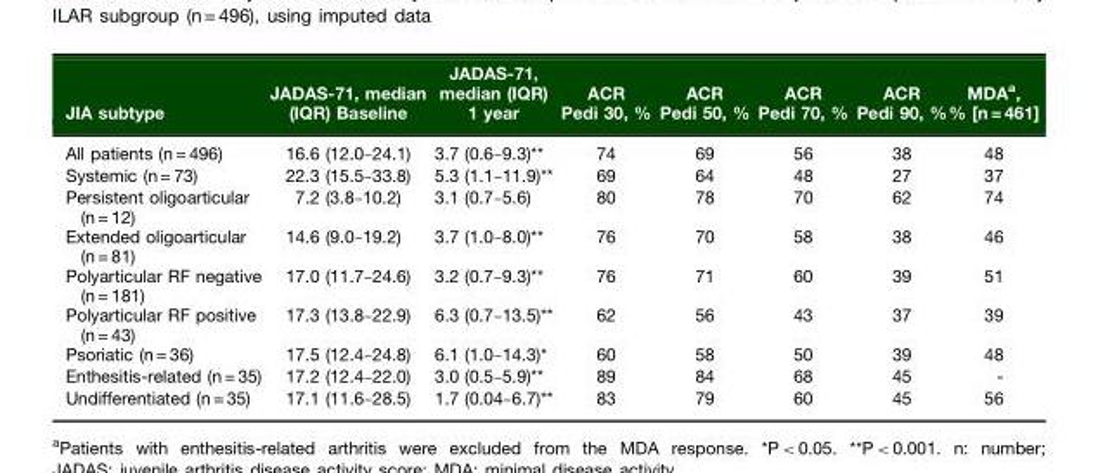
<table><thead><tr><td>JIA subtype</td><td>JADAS-71, median (IQR) Baseline</td><td>JADAS-71, median (IQR) 1 year</td><td>ACR Pedi 30, %</td><td>ACR Pedi 50, %</td><td>ACR Pedi 70, %</td><td>ACR Pedi 90, %</td><td>MDA<sup>a</sup>, % [n = 461]</td></tr></thead><tbody><tr><td>All patients (n = 496)</td><td>16.6 (12.0–24.1)</td><td>3.7 (0.6–9.3)**</td><td>74</td><td>69</td><td>56</td><td>38</td><td>48</td></tr><tr><td>Systemic (n = 73)</td><td>22.3 (15.5–33.8)</td><td>5.3 (1.1–11.9)**</td><td>69</td><td>64</td><td>48</td><td>27</td><td>37</td></tr><tr><td>Persistent oligoarticular (n = 12)</td><td>7.2 (3.8–10.2)</td><td>3.1 (0.7–5.6)</td><td>80</td><td>78</td><td>70</td><td>62</td><td>74</td></tr><tr><td>Extended oligoarticular (n = 81)</td><td>14.6 (9.0–19.2)</td><td>3.7 (1.0–8.0)**</td><td>76</td><td>70</td><td>58</td><td>38</td><td>46</td></tr><tr><td>Polyarticular RF negative (n = 181)</td><td>17.0 (11.7–24.6)</td><td>3.2 (0.7–9.3)**</td><td>76</td><td>71</td><td>60</td><td>39</td><td>51</td></tr><tr><td>Polyarticular RF positive (n = 43)</td><td>17.3 (13.8–22.9)</td><td>6.3 (0.7–13.5)**</td><td>62</td><td>56</td><td>43</td><td>37</td><td>39</td></tr><tr><td>Psoriatic (n = 36)</td><td>17.5 (12.4–24.8)</td><td>6.1 (1.0–14.3)*</td><td>60</td><td>58</td><td>50</td><td>39</td><td>48</td></tr><tr><td>Enthesitis-related (n = 35)</td><td>17.2 (12.4–22.0)</td><td>3.0 (0.5–5.9)**</td><td>89</td><td>84</td><td>68</td><td>45</td><td>-</td></tr><tr><td>Undifferentiated (n = 35)</td><td>17.1 (11.6–28.5)</td><td>1.7 (0.04–6.7)**</td><td>83</td><td>79</td><td>60</td><td>45</td><td>56</td></tr></tbody></table>